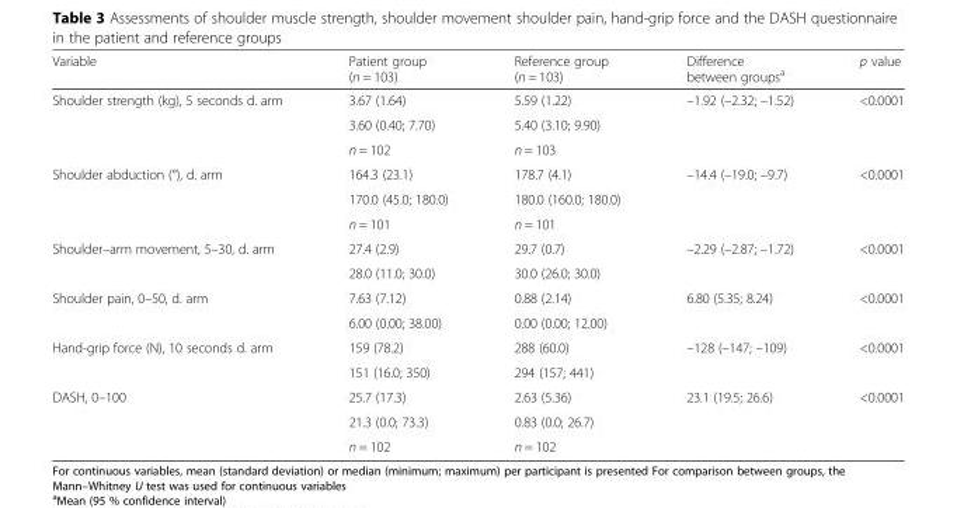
<table><thead><tr><td>Variable</td><td>Patient group (n = 103)</td><td>Reference group (n = 103)</td><td>Difference between groups<sup>a</sup></td><td>p value</td></tr></thead><tbody><tr><td rowspan="3">Shoulder strength (kg), 5 seconds d. arm</td><td>3.67 (1.64)</td><td>5.59 (1.22)</td><td rowspan="3">–1.92 (–2.32; –1.52)</td><td rowspan="3">&lt;0.0001</td></tr><tr><td>3.60 (0.40; 7.70)</td><td>5.40 (3.10; 9.90)</td></tr><tr><td>n = 102</td><td>n = 103</td></tr><tr><td rowspan="3">Shoulder abduction (°), d. arm</td><td>164.3 (23.1)</td><td>178.7 (4.1)</td><td rowspan="3">–14.4 (–19.0; –9.7)</td><td rowspan="3">&lt;0.0001</td></tr><tr><td>170.0 (45.0; 180.0)</td><td>180.0 (160.0; 180.0)</td></tr><tr><td>n = 101</td><td>n = 101</td></tr><tr><td rowspan="2">Shoulder–arm movement, 5–30, d. arm</td><td>27.4 (2.9)</td><td>29.7 (0.7)</td><td rowspan="2">–2.29 (–2.87; –1.72)</td><td rowspan="2">&lt;0.0001</td></tr><tr><td>28.0 (11.0; 30.0)</td><td>30.0 (26.0; 30.0)</td></tr><tr><td rowspan="2">Shoulder pain, 0–50, d. arm</td><td>7.63 (7.12)</td><td>0.88 (2.14)</td><td rowspan="2">6.80 (5.35; 8.24)</td><td rowspan="2">&lt;0.0001</td></tr><tr><td>6.00 (0.00; 38.00)</td><td>0.00 (0.00; 12.00)</td></tr><tr><td rowspan="2">Hand-grip force (N), 10 seconds d. arm</td><td>159 (78.2)</td><td>288 (60.0)</td><td rowspan="2">–128 (–147; –109)</td><td rowspan="2">&lt;0.0001</td></tr><tr><td>151 (16.0; 350)</td><td>294 (157; 441)</td></tr><tr><td rowspan="3">DASH, 0–100</td><td>25.7 (17.3)</td><td>2.63 (5.36)</td><td rowspan="3">23.1 (19.5; 26.6)</td><td rowspan="3">&lt;0.0001</td></tr><tr><td>21.3 (0.0; 73.3)</td><td>0.83 (0.0; 26.7)</td></tr><tr><td>n = 102</td><td>n = 102</td></tr></tbody></table>